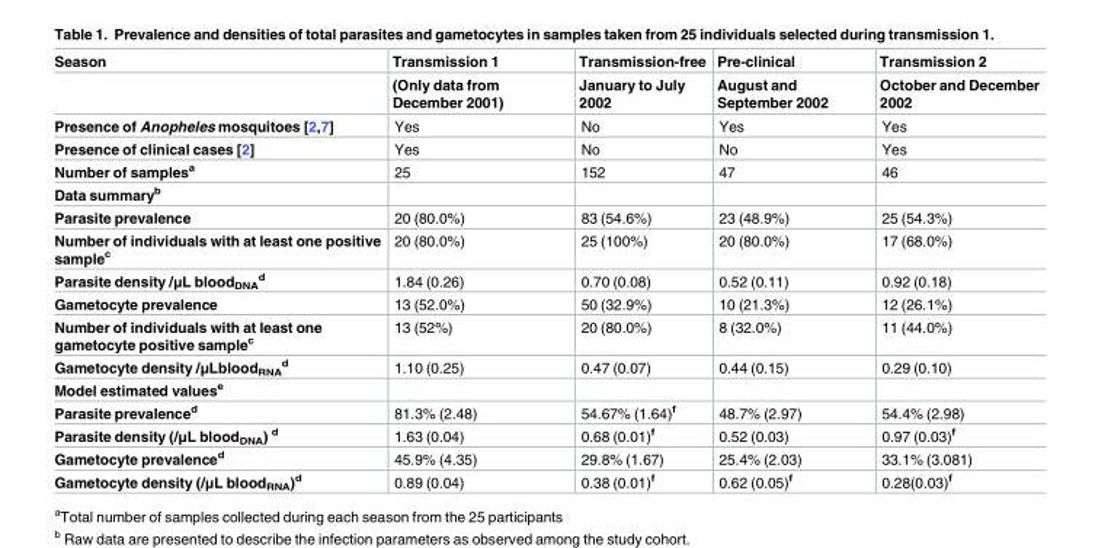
<table><thead><tr><td rowspan="2">Season</td><td rowspan="2">Transmission 1 (Only data from December 2001)</td><td rowspan="2">Transmission-free January to July 2002</td><td rowspan="2">Pre-clinical August and September 2002</td><td rowspan="2">Transmission 2 October and December 2002</td></tr><tr></tr></thead><tbody><tr><td>Presence of Anopheles mosquitoes [2,7]</td><td>Yes</td><td>No</td><td>Yes</td><td>Yes</td></tr><tr><td>Presence of clinical cases [2]</td><td>Yes</td><td>No</td><td>No</td><td>Yes</td></tr><tr><td>Number of samples<sup>a</sup></td><td>25</td><td>152</td><td>47</td><td>46</td></tr><tr><td colspan="5">Data summary<sup>b</sup></td></tr><tr><td>Parasite prevalence</td><td>20 (80.0%)</td><td>83 (54.6%)</td><td>23 (48.9%)</td><td>25 (54.3%)</td></tr><tr><td>Number of individuals with at least one positive sample<sup>c</sup></td><td>20 (80.0%)</td><td>25 (100%)</td><td>20 (80.0%)</td><td>17 (68.0%)</td></tr><tr><td>Parasite density /μL blood<sub>DNA</sub> <sup>d</sup></td><td>1.84 (0.26)</td><td>0.70 (0.08)</td><td>0.52 (0.11)</td><td>0.92 (0.18)</td></tr><tr><td>Gametocyte prevalence</td><td>13 (52.0%)</td><td>50 (32.9%)</td><td>10 (21.3%)</td><td>12 (26.1%)</td></tr><tr><td>Number of individuals with at least one gametocyte positive sample<sup>c</sup></td><td>13 (52%)</td><td>20 (80.0%)</td><td>8 (32.0%)</td><td>11 (44.0%)</td></tr><tr><td>Gametocyte density /μLblood<sub>RNA</sub> <sup>d</sup></td><td>1.10 (0.25)</td><td>0.47 (0.07)</td><td>0.44 (0.15)</td><td>0.29 (0.10)</td></tr><tr><td colspan="5">Model estimated values<sup>e</sup></td></tr><tr><td>Parasite prevalence<sup>d</sup></td><td>81.3% (2.48)</td><td>54.67% (1.64)<sup>f</sup></td><td>48.7% (2.97)</td><td>54.4% (2.98)</td></tr><tr><td>Parasite density (/μL blood<sub>DNA</sub>) <sup>d</sup></td><td>1.63 (0.04)</td><td>0.68 (0.01)<sup>f</sup></td><td>0.52 (0.03)</td><td>0.97 (0.03)<sup>f</sup></td></tr><tr><td>Gametocyte prevalence<sup>d</sup></td><td>45.9% (4.35)</td><td>29.8% (1.67)</td><td>25.4% (2.03)</td><td>33.1% (3.081)</td></tr><tr><td>Gametocyte density (/μL blood<sub>RNA</sub>)<sup>d</sup></td><td>0.89 (0.04)</td><td>0.38 (0.01)<sup>f</sup></td><td>0.62 (0.05)<sup>f</sup></td><td>0.28(0.03)<sup>f</sup></td></tr></tbody></table>